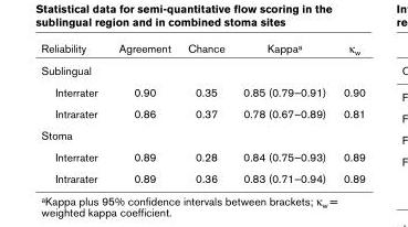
<table><thead><tr><td>Reliability</td><td>Agreement</td><td>Chance</td><td>Kappaa</td><td>κw</td></tr></thead><tbody><tr><td colspan="5">Sublingual</td></tr><tr><td>Interrater</td><td>0.90</td><td>0.35</td><td>0.85 (0.79–0.91)</td><td>0.90</td></tr><tr><td>Intrarater</td><td>0.86</td><td>0.37</td><td>0.78 (0.67–0.89)</td><td>0.81</td></tr><tr><td colspan="5">Stoma</td></tr><tr><td>Interrater</td><td>0.89</td><td>0.28</td><td>0.84 (0.75–0.93)</td><td>0.89</td></tr><tr><td>Intrarater</td><td>0.89</td><td>0.36</td><td>0.83 (0.71–0.94)</td><td>0.89</td></tr></tbody></table>